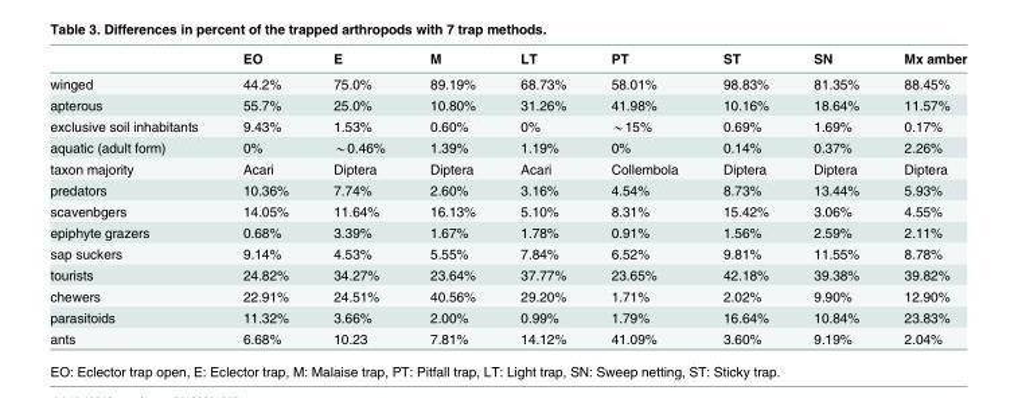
<table><thead><tr><td></td><td>EO</td><td>E</td><td>M</td><td>LT</td><td>PT</td><td>ST</td><td>SN</td><td>Mx amber</td></tr></thead><tbody><tr><td>winged</td><td>44.2%</td><td>75.0%</td><td>89.19%</td><td>68.73%</td><td>58.01%</td><td>98.83%</td><td>81.35%</td><td>88.45%</td></tr><tr><td>apterous</td><td>55.7%</td><td>25.0%</td><td>10.80%</td><td>31.26%</td><td>41.98%</td><td>10.16%</td><td>18.64%</td><td>11.57%</td></tr><tr><td>exclusive soil inhabitants</td><td>9.43%</td><td>1.53%</td><td>0.60%</td><td>0%</td><td>*15%</td><td>0.69%</td><td>1.69%</td><td>0.17%</td></tr><tr><td>aquatic (adult form)</td><td>0%</td><td>*0.46%</td><td>1.39%</td><td>1.19%</td><td>0%</td><td>0.14%</td><td>0.37%</td><td>2.26%</td></tr><tr><td>taxon majority</td><td>Acari</td><td>Diptera</td><td>Diptera</td><td>Acari</td><td>Collembola</td><td>Diptera</td><td>Diptera</td><td>Diptera</td></tr><tr><td>predators</td><td>10.36%</td><td>7.74%</td><td>2.60%</td><td>3.16%</td><td>4.54%</td><td>8.73%</td><td>13.44%</td><td>5.93%</td></tr><tr><td>scavenbgers</td><td>14.05%</td><td>11.64%</td><td>16.13%</td><td>5.10%</td><td>8.31%</td><td>15.42%</td><td>3.06%</td><td>4.55%</td></tr><tr><td>epiphyte grazers</td><td>0.68%</td><td>3.39%</td><td>1.67%</td><td>1.78%</td><td>0.91%</td><td>1.56%</td><td>2.59%</td><td>2.11%</td></tr><tr><td>sap suckers</td><td>9.14%</td><td>4.53%</td><td>5.55%</td><td>7.84%</td><td>6.52%</td><td>9.81%</td><td>11.55%</td><td>8.78%</td></tr><tr><td>tourists</td><td>24.82%</td><td>34.27%</td><td>23.64%</td><td>37.77%</td><td>23.65%</td><td>42.18%</td><td>39.38%</td><td>39.82%</td></tr><tr><td>chewers</td><td>22.91%</td><td>24.51%</td><td>40.56%</td><td>29.20%</td><td>1.71%</td><td>2.02%</td><td>9.90%</td><td>12.90%</td></tr><tr><td>parasitoids</td><td>11.32%</td><td>3.66%</td><td>2.00%</td><td>0.99%</td><td>1.79%</td><td>16.64%</td><td>10.84%</td><td>23.83%</td></tr><tr><td>ants</td><td>6.68%</td><td>10.23</td><td>7.81%</td><td>14.12%</td><td>41.09%</td><td>3.60%</td><td>9.19%</td><td>2.04%</td></tr></tbody></table>